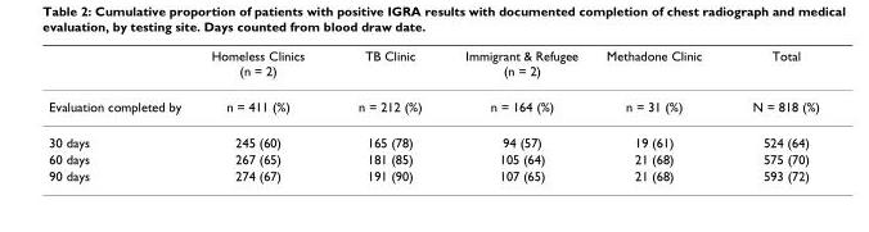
<table><thead><tr><td></td><td>Homeless Clinics (n = 2)</td><td>TB Clinic</td><td>Immigrant &amp; Refugee (n = 2)</td><td>Methadone Clinic</td><td>Total</td></tr></thead><tbody><tr><td>Evaluation completed by</td><td>n = 411 (%)</td><td>n = 212 (%)</td><td>n = 164 (%)</td><td>n = 31 (%)</td><td>N = 818 (%)</td></tr><tr><td>30 days</td><td>245 (60)</td><td>165 (78)</td><td>94 (57)</td><td>19 (61)</td><td>524 (64)</td></tr><tr><td>60 days</td><td>267 (65)</td><td>181 (85)</td><td>105 (64)</td><td>21 (68)</td><td>575 (70)</td></tr><tr><td>90 days</td><td>274 (67)</td><td>191 (90)</td><td>107 (65)</td><td>21 (68)</td><td>593 (72)</td></tr></tbody></table>